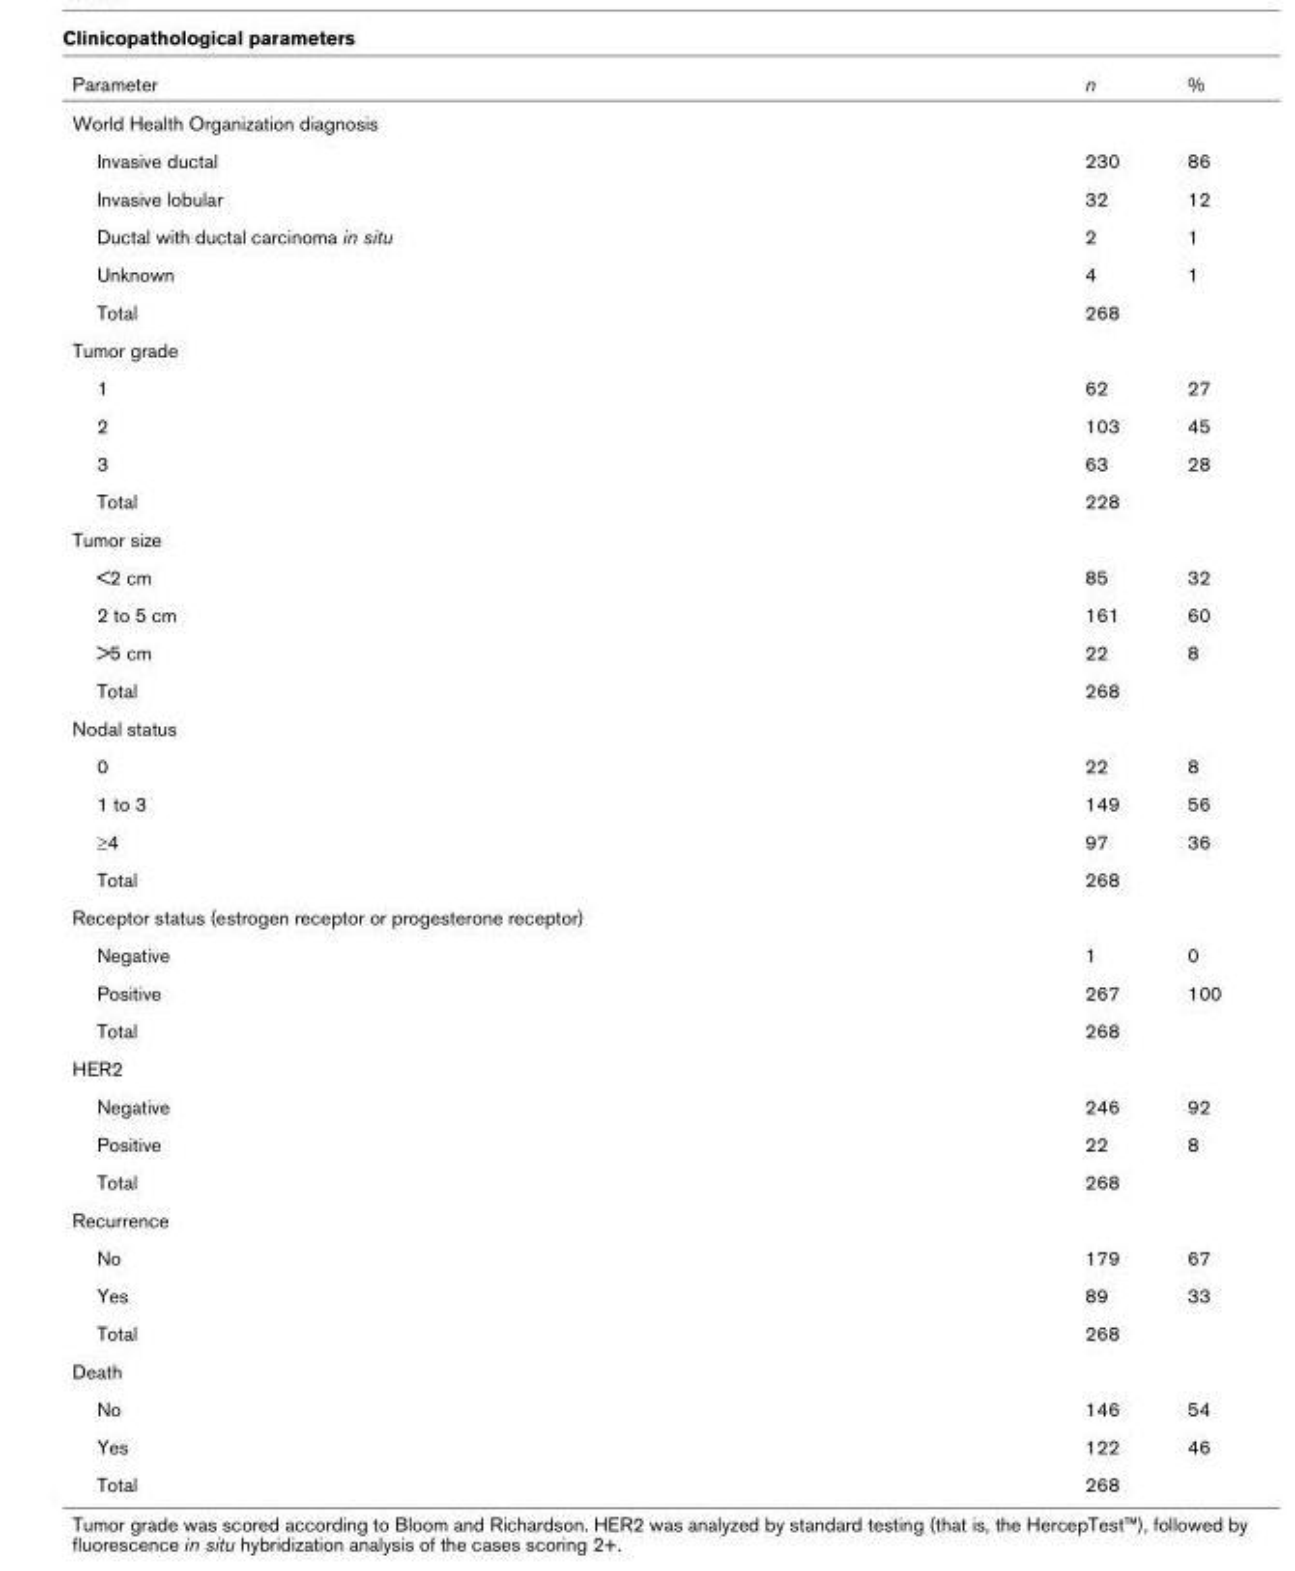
<table><thead><tr><td>Parameter</td><td>n</td><td>%</td></tr></thead><tbody><tr><td colspan="3">World Health Organization diagnosis</td></tr><tr><td>Invasive ductal</td><td>230</td><td>86</td></tr><tr><td>Invasive lobular</td><td>32</td><td>12</td></tr><tr><td>Ductal with ductal carcinoma in situ</td><td>2</td><td>1</td></tr><tr><td>Unknown</td><td>4</td><td>1</td></tr><tr><td>Total</td><td>268</td><td></td></tr><tr><td colspan="3">Tumor grade</td></tr><tr><td>1</td><td>62</td><td>27</td></tr><tr><td>2</td><td>103</td><td>45</td></tr><tr><td>3</td><td>63</td><td>28</td></tr><tr><td>Total</td><td>228</td><td></td></tr><tr><td colspan="3">Tumor size</td></tr><tr><td>&lt;2 cm</td><td>85</td><td>32</td></tr><tr><td>2 to 5 cm</td><td>161</td><td>60</td></tr><tr><td>&gt;5 cm</td><td>22</td><td>8</td></tr><tr><td>Total</td><td>268</td><td></td></tr><tr><td colspan="3">Nodal status</td></tr><tr><td>0</td><td>22</td><td>8</td></tr><tr><td>1 to 3</td><td>149</td><td>56</td></tr><tr><td>≥4</td><td>97</td><td>36</td></tr><tr><td>Total</td><td>268</td><td></td></tr><tr><td colspan="3">Receptor status (estrogen receptor or progesterone receptor)</td></tr><tr><td>Negative</td><td>1</td><td>0</td></tr><tr><td>Positive</td><td>267</td><td>100</td></tr><tr><td>Total</td><td>268</td><td></td></tr><tr><td colspan="3">HER2</td></tr><tr><td>Negative</td><td>246</td><td>92</td></tr><tr><td>Positive</td><td>22</td><td>8</td></tr><tr><td>Total</td><td>268</td><td></td></tr><tr><td colspan="3">Recurrence</td></tr><tr><td>No</td><td>179</td><td>67</td></tr><tr><td>Yes</td><td>89</td><td>33</td></tr><tr><td>Total</td><td>268</td><td></td></tr><tr><td colspan="3">Death</td></tr><tr><td>No</td><td>146</td><td>54</td></tr><tr><td>Yes</td><td>122</td><td>46</td></tr><tr><td>Total</td><td>268</td><td></td></tr></tbody></table>